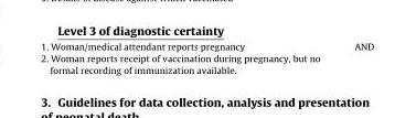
<table><tbody><tr><td>1. Woman/medical attendant reports pregnancy</td><td>AND</td></tr><tr><td>2. Woman reports receipt of vaccination during pregnancy, but no formal recording of immunization available.</td><td></td></tr></tbody></table>